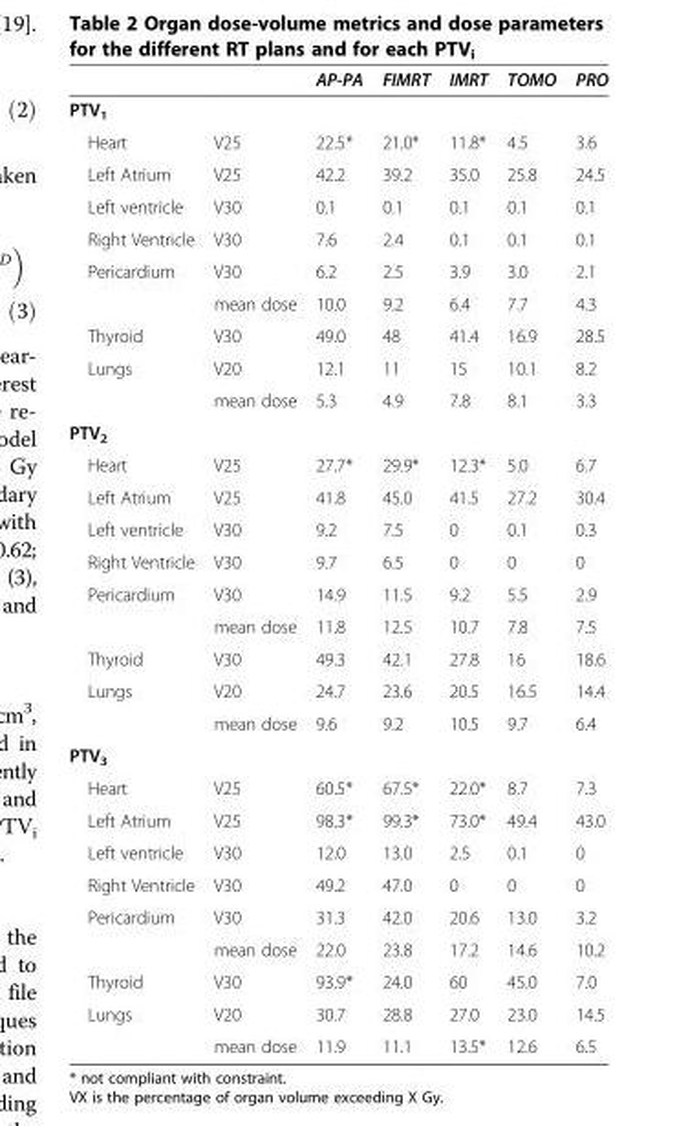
<table><thead><tr><td></td><td></td><td>AP-PA</td><td>FIMRT</td><td>IMRT</td><td>TOMO</td><td>PRO</td></tr></thead><tbody><tr><td colspan="7">PTV<sub>1</sub></td></tr><tr><td>Heart</td><td>V25</td><td>22.5*</td><td>21.0*</td><td>11.8*</td><td>4.5</td><td>3.6</td></tr><tr><td>Left Atrium</td><td>V25</td><td>42.2</td><td>39.2</td><td>35.0</td><td>25.8</td><td>24.5</td></tr><tr><td>Left ventricle</td><td>V30</td><td>0.1</td><td>0.1</td><td>0.1</td><td>0.1</td><td>0.1</td></tr><tr><td>Right Ventricle</td><td>V30</td><td>7.6</td><td>2.4</td><td>0.1</td><td>0.1</td><td>0.1</td></tr><tr><td rowspan="2">Pericardium</td><td>V30</td><td>6.2</td><td>2.5</td><td>3.9</td><td>3.0</td><td>2.1</td></tr><tr><td>mean dose</td><td>10.0</td><td>9.2</td><td>6.4</td><td>7.7</td><td>4.3</td></tr><tr><td>Thyroid</td><td>V30</td><td>49.0</td><td>48</td><td>41.4</td><td>16.9</td><td>28.5</td></tr><tr><td rowspan="2">Lungs</td><td>V20</td><td>12.1</td><td>11</td><td>15</td><td>10.1</td><td>8.2</td></tr><tr><td>mean dose</td><td>5.3</td><td>4.9</td><td>7.8</td><td>8.1</td><td>3.3</td></tr><tr><td colspan="7">PTV<sub>2</sub></td></tr><tr><td>Heart</td><td>V25</td><td>27.7*</td><td>29.9*</td><td>12.3*</td><td>5.0</td><td>6.7</td></tr><tr><td>Left Atrium</td><td>V25</td><td>41.8</td><td>45.0</td><td>41.5</td><td>27.2</td><td>30.4</td></tr><tr><td>Left ventricle</td><td>V30</td><td>9.2</td><td>7.5</td><td>0</td><td>0.1</td><td>0.3</td></tr><tr><td>Right Ventricle</td><td>V30</td><td>9.7</td><td>6.5</td><td>0</td><td>0</td><td>0</td></tr><tr><td rowspan="2">Pericardium</td><td>V30</td><td>14.9</td><td>11.5</td><td>9.2</td><td>5.5</td><td>2.9</td></tr><tr><td>mean dose</td><td>11.8</td><td>12.5</td><td>10.7</td><td>7.8</td><td>7.5</td></tr><tr><td>Thyroid</td><td>V30</td><td>49.3</td><td>42.1</td><td>27.8</td><td>16</td><td>18.6</td></tr><tr><td rowspan="2">Lungs</td><td>V20</td><td>24.7</td><td>23.6</td><td>20.5</td><td>16.5</td><td>14.4</td></tr><tr><td>mean dose</td><td>9.6</td><td>9.2</td><td>10.5</td><td>9.7</td><td>6.4</td></tr><tr><td colspan="7">PTV<sub>3</sub></td></tr><tr><td>Heart</td><td>V25</td><td>60.5*</td><td>67.5*</td><td>22.0*</td><td>8.7</td><td>7.3</td></tr><tr><td>Left Atrium</td><td>V25</td><td>98.3*</td><td>99.3*</td><td>73.0*</td><td>49.4</td><td>43.0</td></tr><tr><td>Left ventricle</td><td>V30</td><td>12.0</td><td>13.0</td><td>2.5</td><td>0.1</td><td>0</td></tr><tr><td>Right Ventricle</td><td>V30</td><td>49.2</td><td>47.0</td><td>0</td><td>0</td><td>0</td></tr><tr><td rowspan="2">Pericardium</td><td>V30</td><td>31.3</td><td>42.0</td><td>20.6</td><td>13.0</td><td>3.2</td></tr><tr><td>mean dose</td><td>22.0</td><td>23.8</td><td>17.2</td><td>14.6</td><td>10.2</td></tr><tr><td>Thyroid</td><td>V30</td><td>93.9*</td><td>24.0</td><td>60</td><td>45.0</td><td>7.0</td></tr><tr><td rowspan="2">Lungs</td><td>V20</td><td>30.7</td><td>28.8</td><td>27.0</td><td>23.0</td><td>14.5</td></tr><tr><td>mean dose</td><td>11.9</td><td>11.1</td><td>13.5*</td><td>12.6</td><td>6.5</td></tr></tbody></table>